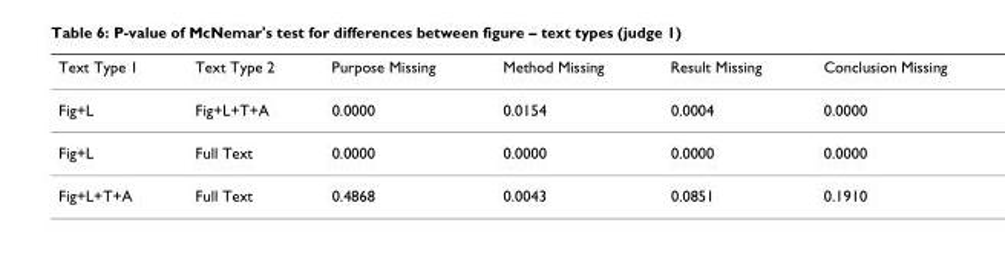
<table><thead><tr><td>Text Type 1</td><td>Text Type 2</td><td>Purpose Missing</td><td>Method Missing</td><td>Result Missing</td><td>Conclusion Missing</td></tr></thead><tbody><tr><td>Fig+L</td><td>Fig+L+T+A</td><td>0.0000</td><td>0.0154</td><td>0.0004</td><td>0.0000</td></tr><tr><td>Fig+L</td><td>Full Text</td><td>0.0000</td><td>0.0000</td><td>0.0000</td><td>0.0000</td></tr><tr><td>Fig+L+T+A</td><td>Full Text</td><td>0.4868</td><td>0.0043</td><td>0.0851</td><td>0.1910</td></tr></tbody></table>